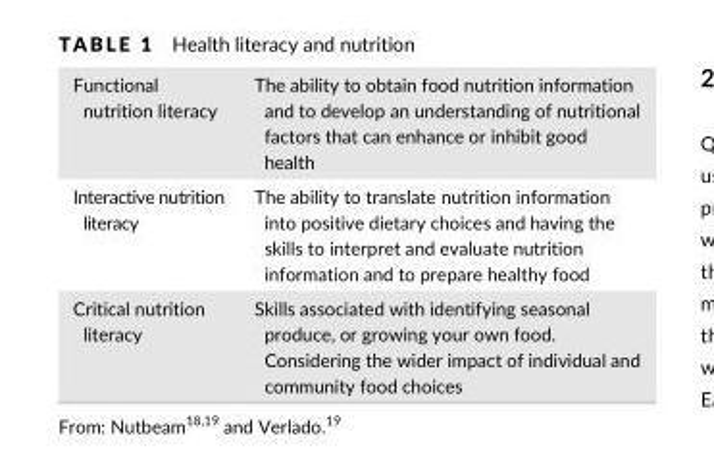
<table><tbody><tr><td>Functional nutrition literacy</td><td>The ability to obtain food nutrition information and to develop an understanding of nutritional factors that can enhance or inhibit good health</td></tr><tr><td>Interactive nutrition literacy</td><td>The ability to translate nutrition information into positive dietary choices and having the skills to interpret and evaluate nutrition information and to prepare healthy food</td></tr><tr><td>Critical nutrition literacy</td><td>Skills associated with identifying seasonal produce, or growing your own food. Considering the wider impact of individual and community food choices</td></tr></tbody></table>